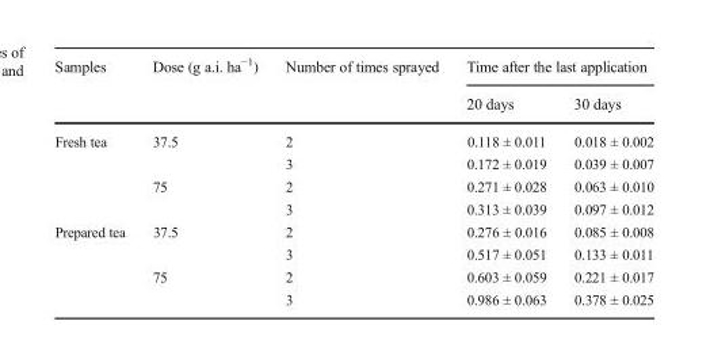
<table><thead><tr><td rowspan="2">Samples</td><td rowspan="2">Dose (g a.i. ha<sup>−1</sup>)</td><td rowspan="2">Number of times sprayed</td><td colspan="2">Time after the last application</td></tr><tr><td>20 days</td><td>30 days</td></tr></thead><tbody><tr><td rowspan="4">Fresh tea</td><td rowspan="2">37.5</td><td>2</td><td>0.118 ± 0.011</td><td>0.018 ± 0.002</td></tr><tr><td>3</td><td>0.172 ± 0.019</td><td>0.039 ± 0.007</td></tr><tr><td rowspan="2">75</td><td>2</td><td>0.271 ± 0.028</td><td>0.063 ± 0.010</td></tr><tr><td>3</td><td>0.313 ± 0.039</td><td>0.097 ± 0.012</td></tr><tr><td rowspan="4">Prepared tea</td><td rowspan="2">37.5</td><td>2</td><td>0.276 ± 0.016</td><td>0.085 ± 0.008</td></tr><tr><td>3</td><td>0.517 ± 0.051</td><td>0.133 ± 0.011</td></tr><tr><td rowspan="2">75</td><td>2</td><td>0.603 ± 0.059</td><td>0.221 ± 0.017</td></tr><tr><td>3</td><td>0.986 ± 0.063</td><td>0.378 ± 0.025</td></tr></tbody></table>